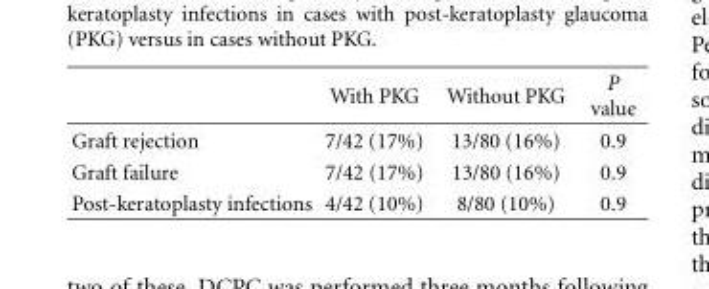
<table><thead><tr><td></td><td>With PKG</td><td>Without PKG</td><td>P value</td></tr></thead><tbody><tr><td>Graft rejection</td><td>7/42 (17%)</td><td>13/80 (16%)</td><td>0.9</td></tr><tr><td>Graft failure</td><td>7/42 (17%)</td><td>13/80 (16%)</td><td>0.9</td></tr><tr><td>Post-keratoplasty infections</td><td>4/42 (10%)</td><td>8/80 (10%)</td><td>0.9</td></tr></tbody></table>